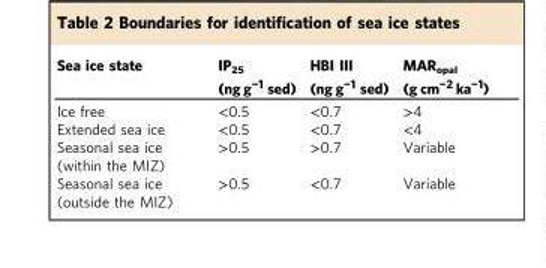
<table><thead><tr><td rowspan="2">Sea ice state</td><td rowspan="2">IP<sub>25</sub> (ng g<sup>−1</sup> sed)</td><td rowspan="2">HBI III (ng g<sup>−1</sup> sed)</td><td rowspan="2">MAR<sub>opal</sub> (g cm<sup>−2</sup> ka<sup>−1</sup>)</td></tr><tr></tr></thead><tbody><tr><td>Ice free</td><td>&lt;0.5</td><td>&lt;0.7</td><td>&gt;4</td></tr><tr><td>Extended sea ice</td><td>&lt;0.5</td><td>&lt;0.7</td><td>&lt;4</td></tr><tr><td>Seasonal sea ice (within the MIZ)</td><td>&gt;0.5</td><td>&gt;0.7</td><td>Variable</td></tr><tr><td>Seasonal sea ice (outside the MIZ)</td><td>&gt;0.5</td><td>&lt;0.7</td><td>Variable</td></tr></tbody></table>